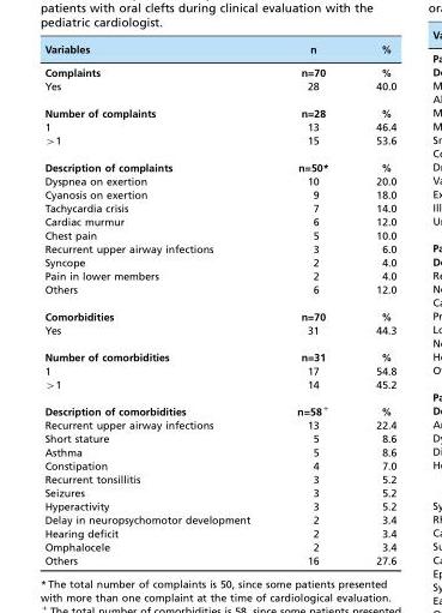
<table><thead><tr><td>Variables</td><td>n</td><td>%</td></tr></thead><tbody><tr><td>Complaints</td><td>n=70</td><td>%</td></tr><tr><td>Yes</td><td>28</td><td>40.0</td></tr><tr><td>Number of complaints</td><td>n=28</td><td>%</td></tr><tr><td>1</td><td>13</td><td>46.4</td></tr><tr><td>&gt;1</td><td>15</td><td>53.6</td></tr><tr><td>Description of complaints</td><td>n=50*</td><td>%</td></tr><tr><td>Dyspnea on exertion</td><td>10</td><td>20.0</td></tr><tr><td>Cyanosis on exertion</td><td>9</td><td>18.0</td></tr><tr><td>Tachycardia crisis</td><td>7</td><td>14.0</td></tr><tr><td>Cardiac murmur</td><td>6</td><td>12.0</td></tr><tr><td>Chest pain</td><td>5</td><td>10.0</td></tr><tr><td>Recurrent upper airway infections</td><td>3</td><td>6.0</td></tr><tr><td>Syncope</td><td>2</td><td>4.0</td></tr><tr><td>Pain in lower members</td><td>2</td><td>4.0</td></tr><tr><td>Others</td><td>6</td><td>12.0</td></tr><tr><td>Comorbidities</td><td>n=70</td><td>%</td></tr><tr><td>Yes</td><td>31</td><td>44.3</td></tr><tr><td>Number of comorbidities</td><td>n=31</td><td>%</td></tr><tr><td>1</td><td>17</td><td>54.8</td></tr><tr><td>&gt;1</td><td>14</td><td>45.2</td></tr><tr><td>Description of comorbidities</td><td>n=58+</td><td>%</td></tr><tr><td>Recurrent upper airway infections</td><td>13</td><td>22.4</td></tr><tr><td>Short stature</td><td>5</td><td>8.6</td></tr><tr><td>Asthma</td><td>5</td><td>8.6</td></tr><tr><td>Constipation</td><td>4</td><td>7.0</td></tr><tr><td>Recurrent tonsillitis</td><td>3</td><td>5.2</td></tr><tr><td>Seizures</td><td>3</td><td>5.2</td></tr><tr><td>Hyperactivity</td><td>3</td><td>5.2</td></tr><tr><td>Delay in neuropsychomotor development</td><td>2</td><td>3.4</td></tr><tr><td>Hearing deficit</td><td>2</td><td>3.4</td></tr><tr><td>Omphalocele</td><td>2</td><td>3.4</td></tr><tr><td>Others</td><td>16</td><td>27.6</td></tr></tbody></table>